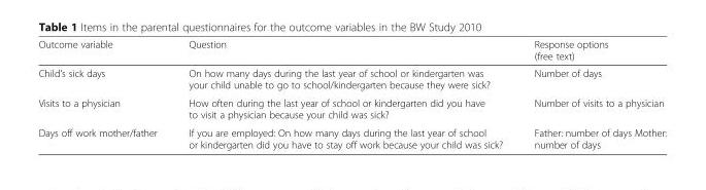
<table><thead><tr><td>Outcome variable</td><td>Question</td><td>Response options (free text)</td></tr></thead><tbody><tr><td>Child’s sick days</td><td>On how many days during the last year of school or kindergarten was your child unable to go to school/kindergarten because they were sick?</td><td>Number of days</td></tr><tr><td>Visits to a physician</td><td>How often during the last year of school or kindergarten did you have to visit a physician because your child was sick?</td><td>Number of visits to a physician</td></tr><tr><td>Days off work mother/father</td><td>If you are employed: On how many days during the last year of school or kindergarten did you have to stay off work because your child was sick?</td><td>Father: number of days Mother: number of days</td></tr></tbody></table>